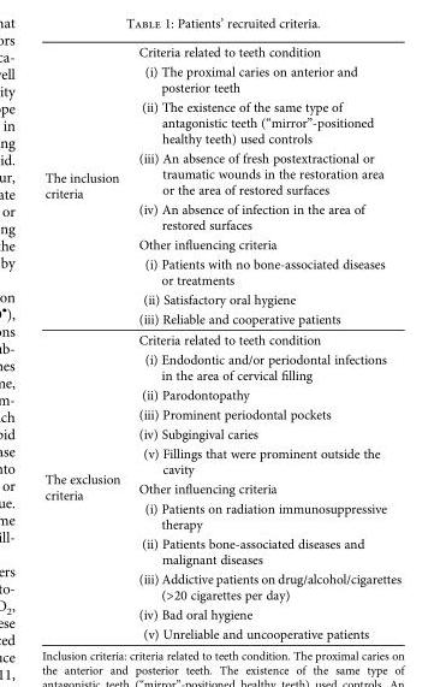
<table><tbody><tr><td rowspan="9">The inclusion criteria</td><td>Criteria related to teeth condition</td></tr><tr><td>(i) The proximal caries on anterior and posterior teeth</td></tr><tr><td>(ii) The existence of the same type of antagonistic teeth (“mirror”-positioned healthy teeth) used controls</td></tr><tr><td>(iii) An absence of fresh postextractional or traumatic wounds in the restoration area or the area of restored surfaces</td></tr><tr><td>(iv) An absence of infection in the area of restored surfaces</td></tr><tr><td>Other influencing criteria</td></tr><tr><td>(i) Patients with no bone-associated diseases or treatments</td></tr><tr><td>(ii) Satisfactory oral hygiene</td></tr><tr><td>(iii) Reliable and cooperative patients</td></tr><tr><td rowspan="12">The exclusion criteria</td><td>Criteria related to teeth condition</td></tr><tr><td>(i) Endodontic and/or periodontal infections in the area of cervical filling</td></tr><tr><td>(ii) Parodontopathy</td></tr><tr><td>(iii) Prominent periodontal pockets</td></tr><tr><td>(iv) Subgingival caries</td></tr><tr><td>(v) Fillings that were prominent outside the cavity</td></tr><tr><td>Other influencing criteria</td></tr><tr><td>(i) Patients on radiation immunosuppressive therapy</td></tr><tr><td>(ii) Patients bone-associated diseases and malignant diseases</td></tr><tr><td>(iii) Addictive patients on drug/alcohol/cigarettes (&gt;20 cigarettes per day)</td></tr><tr><td>(iv) Bad oral hygiene</td></tr><tr><td>(v) Unreliable and uncooperative patients</td></tr></tbody></table>